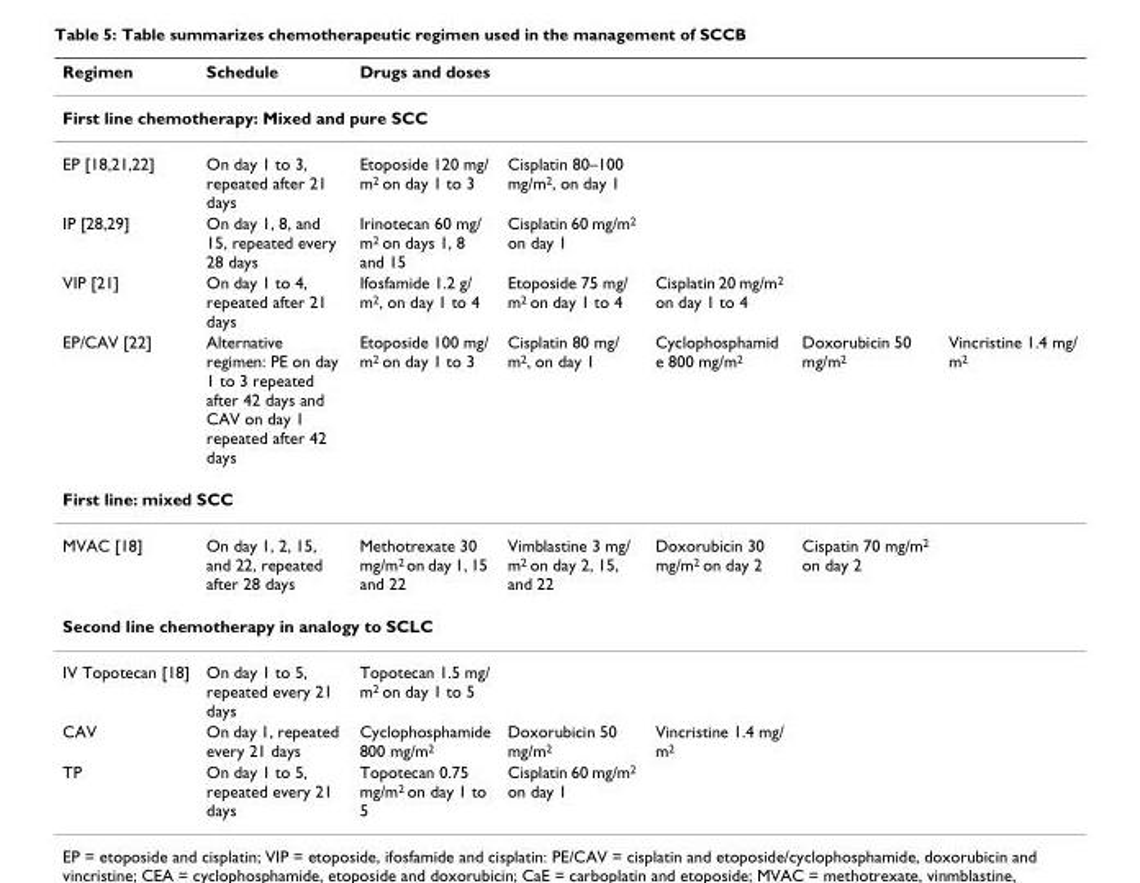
<table><thead><tr><td>Regimen</td><td>Schedule</td><td>Drugs and doses</td><td></td><td></td><td></td><td></td></tr></thead><tbody><tr><td colspan="7">First line chemotherapy: Mixed and pure SCC</td></tr><tr><td>EP [18,21,22]</td><td>On day 1 to 3, repeated after 21 days</td><td>Etoposide 120 mg/ m<sup>2</sup> on day 1 to 3</td><td>Cisplatin 80–100 mg/m<sup>2</sup>, on day 1</td><td></td><td></td><td></td></tr><tr><td>IP [28,29]</td><td>On day 1, 8, and 15, repeated every 28 days</td><td>Irinotecan 60 mg/ m<sup>2</sup> on days 1, 8 and 15</td><td>Cisplatin 60 mg/m<sup>2</sup> on day 1</td><td></td><td></td><td></td></tr><tr><td>VIP [21]</td><td>On day 1 to 4, repeated after 21 days</td><td>Ifosfamide 1.2 g/ m<sup>2</sup>, on day 1 to 4</td><td>Etoposide 75 mg/ m<sup>2</sup> on day 1 to 4</td><td>Cisplatin 20 mg/m<sup>2</sup> on day 1 to 4</td><td></td><td></td></tr><tr><td>EP/CAV [22]</td><td>Alternative regimen: PE on day 1 to 3 repeated after 42 days and CAV on day 1 repeated after 42 days</td><td>Etoposide 100 mg/ m<sup>2</sup> on day 1 to 3</td><td>Cisplatin 80 mg/ m<sup>2</sup>, on day 1</td><td>Cyclophosphamid e 800 mg/m<sup>2</sup></td><td>Doxorubicin 50 mg/m<sup>2</sup></td><td>Vincristine 1.4 mg/ m<sup>2</sup></td></tr><tr><td colspan="7">First line: mixed SCC</td></tr><tr><td>MVAC [18]</td><td>On day 1, 2, 15, and 22, repeated after 28 days</td><td>Methotrexate 30 mg/m<sup>2</sup> on day 1, 15 and 22</td><td>Vimblastine 3 mg/ m<sup>2</sup> on day 2, 15, and 22</td><td>Doxorubicin 30 mg/m<sup>2</sup> on day 2</td><td>Cispatin 70 mg/m<sup>2</sup> on day 2</td><td></td></tr><tr><td colspan="7">Second line chemotherapy in analogy to SCLC</td></tr><tr><td>IV Topotecan [18]</td><td>On day 1 to 5, repeated every 21 days</td><td>Topotecan 1.5 mg/ m<sup>2</sup> on day 1 to 5</td><td></td><td></td><td></td><td></td></tr><tr><td>CAV</td><td>On day 1, repeated every 21 days</td><td>Cyclophosphamide 800 mg/m<sup>2</sup></td><td>Doxorubicin 50 mg/m<sup>2</sup></td><td>Vincristine 1.4 mg/ m<sup>2</sup></td><td></td><td></td></tr><tr><td>TP</td><td>On day 1 to 5, repeated every 21 days</td><td>Topotecan 0.75 mg/m<sup>2</sup> on day 1 to 5</td><td>Cisplatin 60 mg/m<sup>2</sup> on day 1</td><td></td><td></td><td></td></tr></tbody></table>